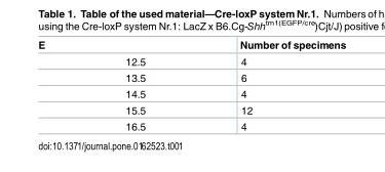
<table><thead><tr><td>E</td><td>Number of specimens</td></tr></thead><tbody><tr><td>12.5</td><td>4</td></tr><tr><td>13.5</td><td>6</td></tr><tr><td>14.5</td><td>4</td></tr><tr><td>15.5</td><td>12</td></tr><tr><td>16.5</td><td>4</td></tr></tbody></table>